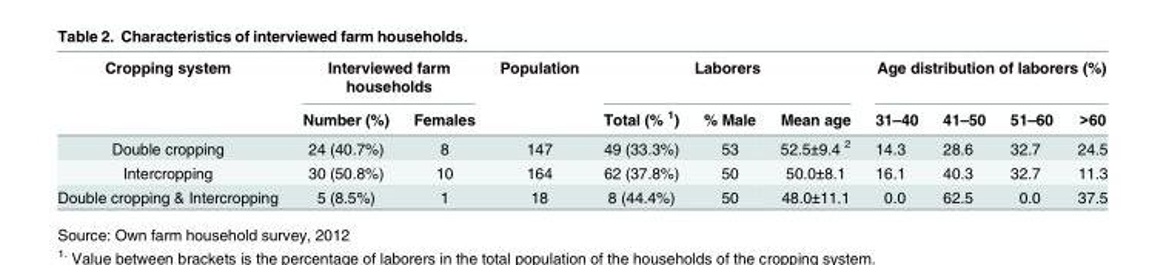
<table><thead><tr><td rowspan="2">Cropping system</td><td colspan="2">Interviewed farm households</td><td rowspan="2">Population</td><td colspan="3">Laborers</td><td colspan="4">Age distribution of laborers (%)</td></tr><tr><td>Number (%)</td><td>Females</td><td>Total (% <sup>1</sup>)</td><td>% Male</td><td>Mean age</td><td>31–40</td><td>41–50</td><td>51–60</td><td>&gt;60</td></tr></thead><tbody><tr><td>Double cropping</td><td>24 (40.7%)</td><td>8</td><td>147</td><td>49 (33.3%)</td><td>53</td><td>52.5±9.4 <sup>2</sup></td><td>14.3</td><td>28.6</td><td>32.7</td><td>24.5</td></tr><tr><td>Intercropping</td><td>30 (50.8%)</td><td>10</td><td>164</td><td>62 (37.8%)</td><td>50</td><td>50.0±8.1</td><td>16.1</td><td>40.3</td><td>32.7</td><td>11.3</td></tr><tr><td>Double cropping &amp; Intercropping</td><td>5 (8.5%)</td><td>1</td><td>18</td><td>8 (44.4%)</td><td>50</td><td>48.0±11.1</td><td>0.0</td><td>62.5</td><td>0.0</td><td>37.5</td></tr></tbody></table>